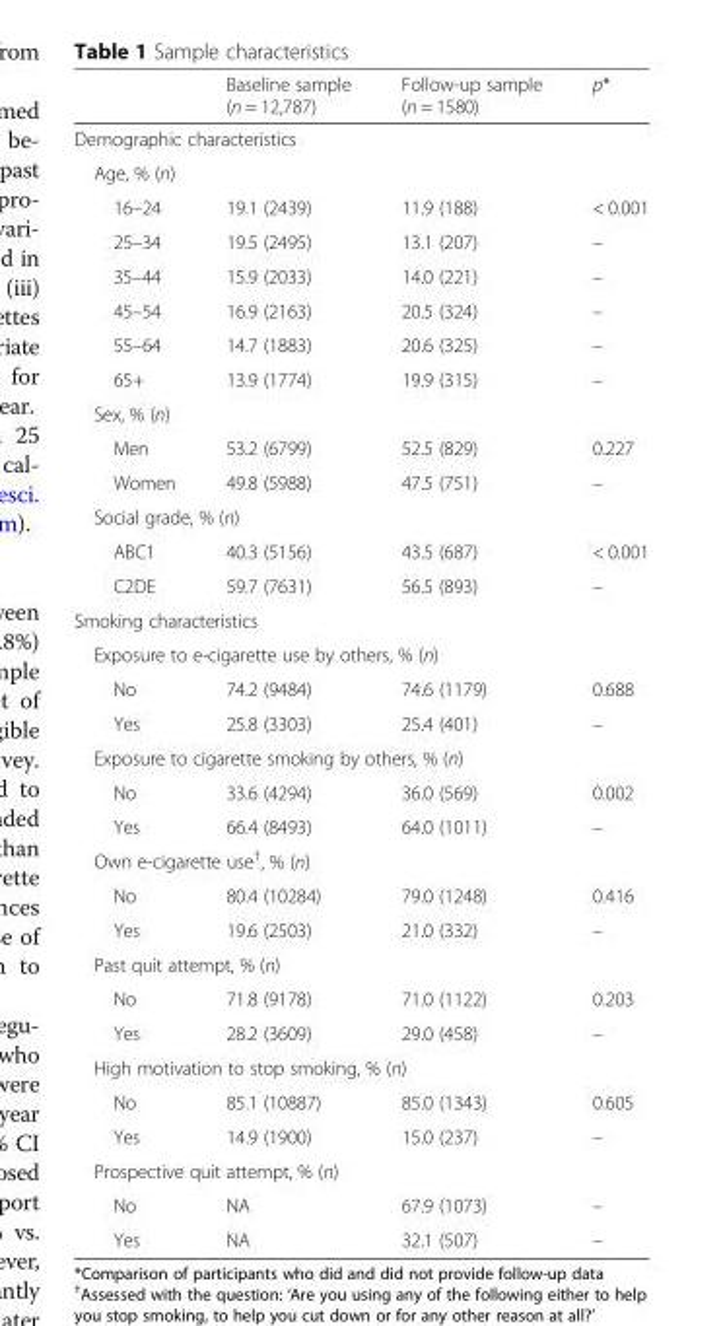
<table><thead><tr><td></td><td>Baseline sample (n = 12,787)</td><td>Follow-up sample (n = 1580)</td><td>p*</td></tr></thead><tbody><tr><td colspan="4">Demographic characteristics</td></tr><tr><td colspan="4">Age, % (n)</td></tr><tr><td>16–24</td><td>19.1 (2439)</td><td>11.9 (188)</td><td>&lt; 0.001</td></tr><tr><td>25–34</td><td>19.5 (2495)</td><td>13.1 (207)</td><td>–</td></tr><tr><td>35–44</td><td>15.9 (2033)</td><td>14.0 (221)</td><td>–</td></tr><tr><td>45–54</td><td>16.9 (2163)</td><td>20.5 (324)</td><td>–</td></tr><tr><td>55–64</td><td>14.7 (1883)</td><td>20.6 (325)</td><td>–</td></tr><tr><td>65+</td><td>13.9 (1774)</td><td>19.9 (315)</td><td>–</td></tr><tr><td colspan="4">Sex, % (n)</td></tr><tr><td>Men</td><td>53.2 (6799)</td><td>52.5 (829)</td><td>0.227</td></tr><tr><td>Women</td><td>49.8 (5988)</td><td>47.5 (751)</td><td>–</td></tr><tr><td colspan="4">Social grade, % (n)</td></tr><tr><td>ABC1</td><td>40.3 (5156)</td><td>43.5 (687)</td><td>&lt; 0.001</td></tr><tr><td>C2DE</td><td>59.7 (7631)</td><td>56.5 (893)</td><td>–</td></tr><tr><td colspan="4">Smoking characteristics</td></tr><tr><td colspan="4">Exposure to e-cigarette use by others, % (n)</td></tr><tr><td>No</td><td>74.2 (9484)</td><td>74.6 (1179)</td><td>0.688</td></tr><tr><td>Yes</td><td>25.8 (3303)</td><td>25.4 (401)</td><td>–</td></tr><tr><td colspan="4">Exposure to cigarette smoking by others, % (n)</td></tr><tr><td>No</td><td>33.6 (4294)</td><td>36.0 (569)</td><td>0.002</td></tr><tr><td>Yes</td><td>66.4 (8493)</td><td>64.0 (1011)</td><td>–</td></tr><tr><td colspan="4">Own e-cigarette use<sup>†</sup>, % (n)</td></tr><tr><td>No</td><td>80.4 (10284)</td><td>79.0 (1248)</td><td>0.416</td></tr><tr><td>Yes</td><td>19.6 (2503)</td><td>21.0 (332)</td><td>–</td></tr><tr><td colspan="4">Past quit attempt, % (n)</td></tr><tr><td>No</td><td>71.8 (9178)</td><td>71.0 (1122)</td><td>0.203</td></tr><tr><td>Yes</td><td>28.2 (3609)</td><td>29.0 (458)</td><td>–</td></tr><tr><td colspan="4">High motivation to stop smoking, % (n)</td></tr><tr><td>No</td><td>85.1 (10887)</td><td>85.0 (1343)</td><td>0.605</td></tr><tr><td>Yes</td><td>14.9 (1900)</td><td>15.0 (237)</td><td>–</td></tr><tr><td colspan="4">Prospective quit attempt, % (n)</td></tr><tr><td>No</td><td>NA</td><td>67.9 (1073)</td><td>–</td></tr><tr><td>Yes</td><td>NA</td><td>32.1 (507)</td><td>–</td></tr></tbody></table>